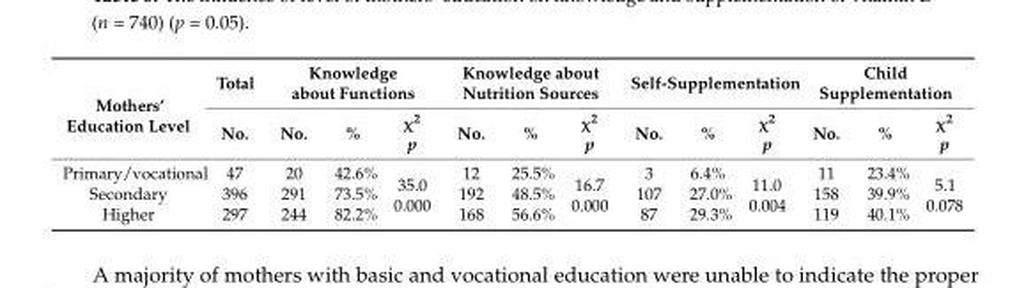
<table><thead><tr><td rowspan="2">Mothers’ Education Level</td><td rowspan="2">Total No.</td><td colspan="3">Knowledge about Functions</td><td colspan="3">Knowledge about Nutrition Sources</td><td colspan="3">Self-Supplementation</td><td colspan="3">Child Supplementation</td></tr><tr><td>No.</td><td>%</td><td>χ<sup>2</sup> p</td><td>No.</td><td>%</td><td>χ<sup>2</sup> p</td><td>No.</td><td>%</td><td>χ<sup>2</sup> p</td><td>No.</td><td>%</td><td>χ<sup>2</sup> p</td></tr></thead><tbody><tr><td>Primary/vocational</td><td>47</td><td>20</td><td>42.6%</td><td rowspan="3">35.0 0.000</td><td>12</td><td>25.5%</td><td rowspan="3">16.7 0.000</td><td>3</td><td>6.4%</td><td rowspan="3">11.0 0.004</td><td>11</td><td>23.4%</td><td rowspan="3">5.1 0.078</td></tr><tr><td>Secondary</td><td>396</td><td>291</td><td>73.5%</td><td>192</td><td>48.5%</td><td>107</td><td>27.0%</td><td>158</td><td>39.9%</td></tr><tr><td>Higher</td><td>297</td><td>244</td><td>82.2%</td><td>168</td><td>56.6%</td><td>87</td><td>29.3%</td><td>119</td><td>40.1%</td></tr></tbody></table>